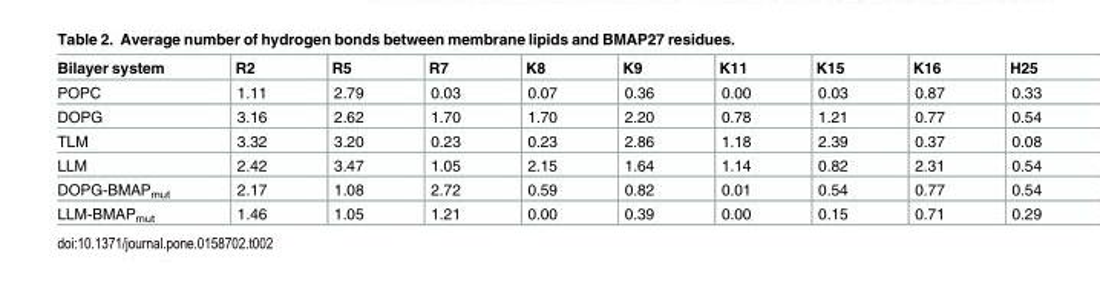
<table><thead><tr><td>Bilayer system</td><td>R2</td><td>R5</td><td>R7</td><td>K8</td><td>K9</td><td>K11</td><td>K15</td><td>K16</td><td>H25</td></tr></thead><tbody><tr><td>POPC</td><td>1.11</td><td>2.79</td><td>0.03</td><td>0.07</td><td>0.36</td><td>0.00</td><td>0.03</td><td>0.87</td><td>0.33</td></tr><tr><td>DOPG</td><td>3.16</td><td>2.62</td><td>1.70</td><td>1.70</td><td>2.20</td><td>0.78</td><td>1.21</td><td>0.77</td><td>0.54</td></tr><tr><td>TLM</td><td>3.32</td><td>3.20</td><td>0.23</td><td>0.23</td><td>2.86</td><td>1.18</td><td>2.39</td><td>0.37</td><td>0.08</td></tr><tr><td>LLM</td><td>2.42</td><td>3.47</td><td>1.05</td><td>2.15</td><td>1.64</td><td>1.14</td><td>0.82</td><td>2.31</td><td>0.54</td></tr><tr><td>DOPG-BMAP<sub>mut</sub></td><td>2.17</td><td>1.08</td><td>2.72</td><td>0.59</td><td>0.82</td><td>0.01</td><td>0.54</td><td>0.77</td><td>0.54</td></tr><tr><td>LLM-BMAP<sub>mut</sub></td><td>1.46</td><td>1.05</td><td>1.21</td><td>0.00</td><td>0.39</td><td>0.00</td><td>0.15</td><td>0.71</td><td>0.29</td></tr></tbody></table>